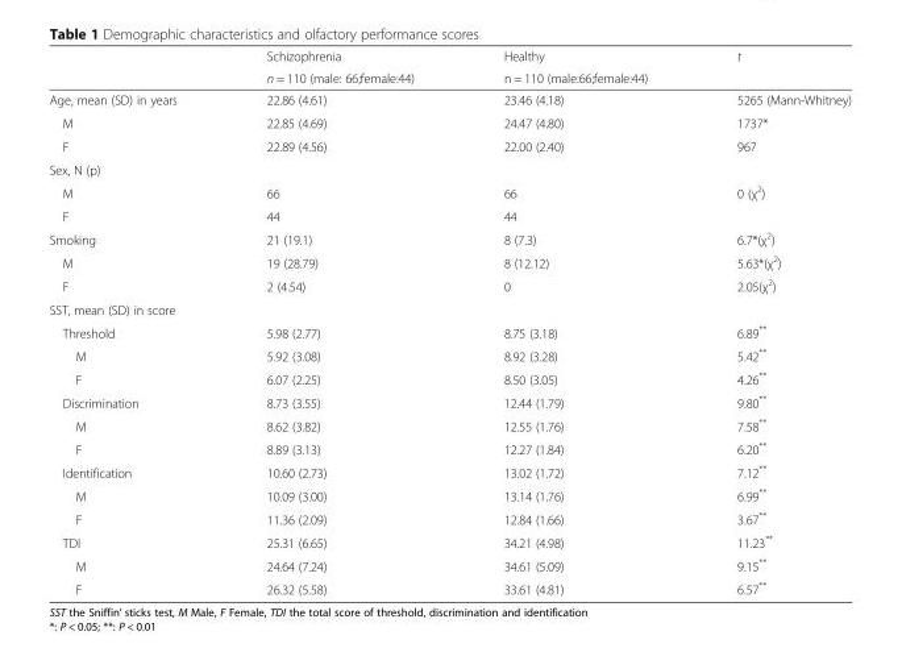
<table><thead><tr><td rowspan="2"></td><td rowspan="2">Schizophrenia n = 110 (male: 66;female:44)</td><td rowspan="2">Healthy n = 110 (male:66;female:44)</td><td rowspan="2">t</td></tr><tr></tr></thead><tbody><tr><td>Age, mean (SD) in years</td><td>22.86 (4.61)</td><td>23.46 (4.18)</td><td>5265 (Mann-Whitney)</td></tr><tr><td>M</td><td>22.85 (4.69)</td><td>24.47 (4.80)</td><td>1737*</td></tr><tr><td>F</td><td>22.89 (4.56)</td><td>22.00 (2.40)</td><td>967</td></tr><tr><td colspan="4">Sex, N (p)</td></tr><tr><td>M</td><td>66</td><td>66</td><td>0 (χ<sup>2</sup>)</td></tr><tr><td>F</td><td>44</td><td>44</td><td></td></tr><tr><td>Smoking</td><td>21 (19.1)</td><td>8 (7.3)</td><td>6.7*(χ<sup>2</sup>)</td></tr><tr><td>M</td><td>19 (28.79)</td><td>8 (12.12)</td><td>5.63*(χ<sup>2</sup>)</td></tr><tr><td>F</td><td>2 (4.54)</td><td>0</td><td>2.05(χ<sup>2</sup>)</td></tr><tr><td colspan="4">SST, mean (SD) in score</td></tr><tr><td>Threshold</td><td>5.98 (2.77)</td><td>8.75 (3.18)</td><td>6.89**</td></tr><tr><td>M</td><td>5.92 (3.08)</td><td>8.92 (3.28)</td><td>5.42**</td></tr><tr><td>F</td><td>6.07 (2.25)</td><td>8.50 (3.05)</td><td>4.26**</td></tr><tr><td>Discrimination</td><td>8.73 (3.55)</td><td>12.44 (1.79)</td><td>9.80**</td></tr><tr><td>M</td><td>8.62 (3.82)</td><td>12.55 (1.76)</td><td>7.58**</td></tr><tr><td>F</td><td>8.89 (3.13)</td><td>12.27 (1.84)</td><td>6.20**</td></tr><tr><td>Identification</td><td>10.60 (2.73)</td><td>13.02 (1.72)</td><td>7.12**</td></tr><tr><td>M</td><td>10.09 (3.00)</td><td>13.14 (1.76)</td><td>6.99**</td></tr><tr><td>F</td><td>11.36 (2.09)</td><td>12.84 (1.66)</td><td>3.67**</td></tr><tr><td>TDI</td><td>25.31 (6.65)</td><td>34.21 (4.98)</td><td>11.23**</td></tr><tr><td>M</td><td>24.64 (7.24)</td><td>34.61 (5.09)</td><td>9.15**</td></tr><tr><td>F</td><td>26.32 (5.58)</td><td>33.61 (4.81)</td><td>6.57**</td></tr></tbody></table>